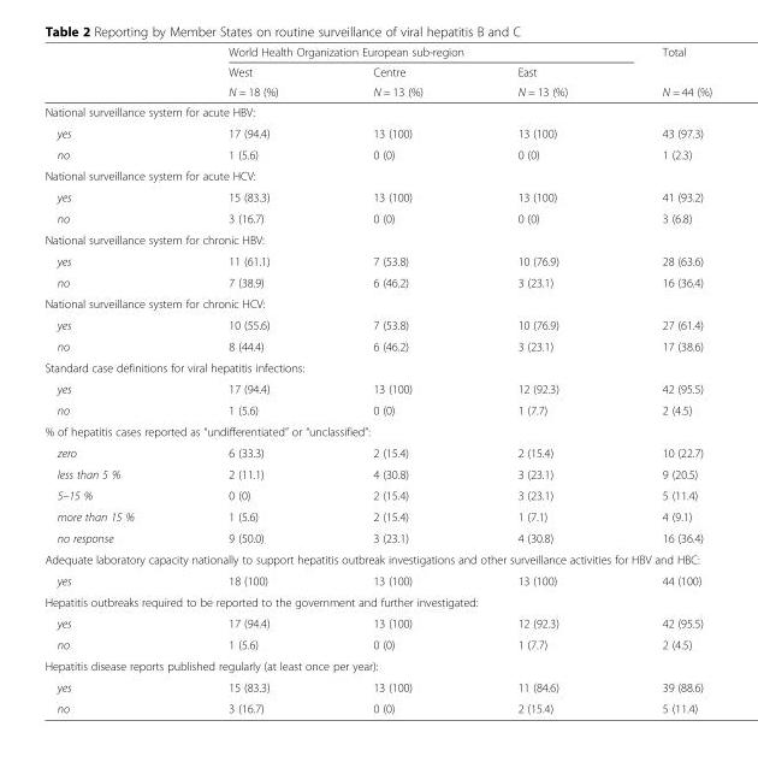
<table><thead><tr><td rowspan="3"></td><td colspan="3">World Health Organization European sub-region</td><td rowspan="3">Total N = 44 (%)</td></tr><tr><td rowspan="2">West N = 18 (%)</td><td rowspan="2">Centre N = 13 (%)</td><td rowspan="2">East N = 13 (%)</td></tr><tr></tr></thead><tbody><tr><td colspan="5">National surveillance system for acute HBV:</td></tr><tr><td>yes</td><td>17 (94.4)</td><td>13 (100)</td><td>13 (100)</td><td>43 (97.3)</td></tr><tr><td>no</td><td>1 (5.6)</td><td>0 (0)</td><td>0 (0)</td><td>1 (2.3)</td></tr><tr><td colspan="5">National surveillance system for acute HCV:</td></tr><tr><td>yes</td><td>15 (83.3)</td><td>13 (100)</td><td>13 (100)</td><td>41 (93.2)</td></tr><tr><td>no</td><td>3 (16.7)</td><td>0 (0)</td><td>0 (0)</td><td>3 (6.8)</td></tr><tr><td colspan="5">National surveillance system for chronic HBV:</td></tr><tr><td>yes</td><td>11 (61.1)</td><td>7 (53.8)</td><td>10 (76.9)</td><td>28 (63.6)</td></tr><tr><td>no</td><td>7 (38.9)</td><td>6 (46.2)</td><td>3 (23.1)</td><td>16 (36.4)</td></tr><tr><td colspan="5">National surveillance system for chronic HCV:</td></tr><tr><td>yes</td><td>10 (55.6)</td><td>7 (53.8)</td><td>10 (76.9)</td><td>27 (61.4)</td></tr><tr><td>no</td><td>8 (44.4)</td><td>6 (46.2)</td><td>3 (23.1)</td><td>17 (38.6)</td></tr><tr><td colspan="5">Standard case definitions for viral hepatitis infections:</td></tr><tr><td>yes</td><td>17 (94.4)</td><td>13 (100)</td><td>12 (92.3)</td><td>42 (95.5)</td></tr><tr><td>no</td><td>1 (5.6)</td><td>0 (0)</td><td>1 (7.7)</td><td>2 (4.5)</td></tr><tr><td colspan="5">% of hepatitis cases reported as “undifferentiated” or “unclassified”:</td></tr><tr><td>zero</td><td>6 (33.3)</td><td>2 (15.4)</td><td>2 (15.4)</td><td>10 (22.7)</td></tr><tr><td>less than 5 %</td><td>2 (11.1)</td><td>4 (30.8)</td><td>3 (23.1)</td><td>9 (20.5)</td></tr><tr><td>5–15 %</td><td>0 (0)</td><td>2 (15.4)</td><td>3 (23.1)</td><td>5 (11.4)</td></tr><tr><td>more than 15 %</td><td>1 (5.6)</td><td>2 (15.4)</td><td>1 (7.1)</td><td>4 (9.1)</td></tr><tr><td>no response</td><td>9 (50.0)</td><td>3 (23.1)</td><td>4 (30.8)</td><td>16 (36.4)</td></tr><tr><td colspan="5">Adequate laboratory capacity nationally to support hepatitis outbreak investigations and other surveillance activities for HBV and HBC:</td></tr><tr><td>yes</td><td>18 (100)</td><td>13 (100)</td><td>13 (100)</td><td>44 (100)</td></tr><tr><td colspan="5">Hepatitis outbreaks required to be reported to the government and further investigated:</td></tr><tr><td>yes</td><td>17 (94.4)</td><td>13 (100)</td><td>12 (92.3)</td><td>42 (95.5)</td></tr><tr><td>no</td><td>1 (5.6)</td><td>0 (0)</td><td>1 (7.7)</td><td>2 (4.5)</td></tr><tr><td colspan="5">Hepatitis disease reports published regularly (at least once per year):</td></tr><tr><td>yes</td><td>15 (83.3)</td><td>13 (100)</td><td>11 (84.6)</td><td>39 (88.6)</td></tr><tr><td>no</td><td>3 (16.7)</td><td>0 (0)</td><td>2 (15.4)</td><td>5 (11.4)</td></tr></tbody></table>